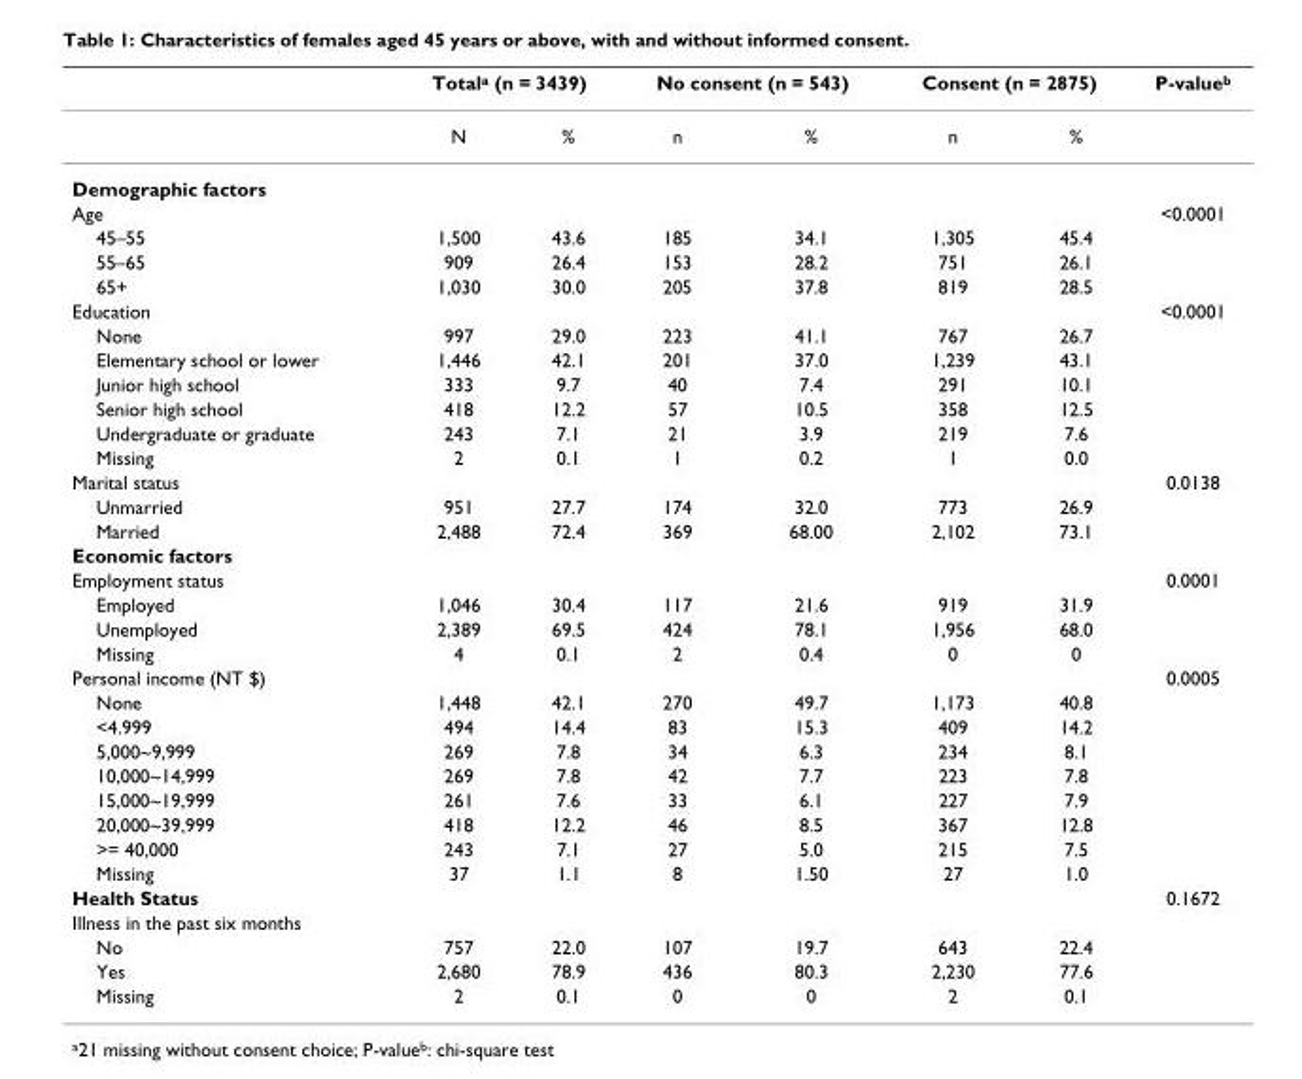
<table><thead><tr><td rowspan="2"></td><td colspan="2">Total<sup>a</sup> (n = 3439)</td><td colspan="2">No consent (n = 543)</td><td colspan="2">Consent (n = 2875)</td><td rowspan="2">P-value<sup>b</sup></td></tr><tr><td>N</td><td>%</td><td>n</td><td>%</td><td>n</td><td>%</td></tr></thead><tbody><tr><td colspan="8">Demographic factors</td></tr><tr><td>Age</td><td></td><td></td><td></td><td></td><td></td><td></td><td>&lt;0.0001</td></tr><tr><td>45–55</td><td>1,500</td><td>43.6</td><td>185</td><td>34.1</td><td>1,305</td><td>45.4</td><td></td></tr><tr><td>55–65</td><td>909</td><td>26.4</td><td>153</td><td>28.2</td><td>751</td><td>26.1</td><td></td></tr><tr><td>65+</td><td>1,030</td><td>30.0</td><td>205</td><td>37.8</td><td>819</td><td>28.5</td><td></td></tr><tr><td>Education</td><td></td><td></td><td></td><td></td><td></td><td></td><td>&lt;0.0001</td></tr><tr><td>None</td><td>997</td><td>29.0</td><td>223</td><td>41.1</td><td>767</td><td>26.7</td><td></td></tr><tr><td>Elementary school or lower</td><td>1,446</td><td>42.1</td><td>201</td><td>37.0</td><td>1,239</td><td>43.1</td><td></td></tr><tr><td>Junior high school</td><td>333</td><td>9.7</td><td>40</td><td>7.4</td><td>291</td><td>10.1</td><td></td></tr><tr><td>Senior high school</td><td>418</td><td>12.2</td><td>57</td><td>10.5</td><td>358</td><td>12.5</td><td></td></tr><tr><td>Undergraduate or graduate</td><td>243</td><td>7.1</td><td>21</td><td>3.9</td><td>219</td><td>7.6</td><td></td></tr><tr><td>Missing</td><td>2</td><td>0.1</td><td>1</td><td>0.2</td><td>1</td><td>0.0</td><td></td></tr><tr><td>Marital status</td><td></td><td></td><td></td><td></td><td></td><td></td><td>0.0138</td></tr><tr><td>Unmarried</td><td>951</td><td>27.7</td><td>174</td><td>32.0</td><td>773</td><td>26.9</td><td></td></tr><tr><td>Married</td><td>2,488</td><td>72.4</td><td>369</td><td>68.00</td><td>2,102</td><td>73.1</td><td></td></tr><tr><td colspan="8">Economic factors</td></tr><tr><td>Employment status</td><td></td><td></td><td></td><td></td><td></td><td></td><td>0.0001</td></tr><tr><td>Employed</td><td>1,046</td><td>30.4</td><td>117</td><td>21.6</td><td>919</td><td>31.9</td><td></td></tr><tr><td>Unemployed</td><td>2,389</td><td>69.5</td><td>424</td><td>78.1</td><td>1,956</td><td>68.0</td><td></td></tr><tr><td>Missing</td><td>4</td><td>0.1</td><td>2</td><td>0.4</td><td>0</td><td>0</td><td></td></tr><tr><td>Personal income (NT $)</td><td></td><td></td><td></td><td></td><td></td><td></td><td>0.0005</td></tr><tr><td>None</td><td>1,448</td><td>42.1</td><td>270</td><td>49.7</td><td>1,173</td><td>40.8</td><td></td></tr><tr><td>&lt;4.999</td><td>494</td><td>14.4</td><td>83</td><td>15.3</td><td>409</td><td>14.2</td><td></td></tr><tr><td>5,000~9,999</td><td>269</td><td>7.8</td><td>34</td><td>6.3</td><td>234</td><td>8.1</td><td></td></tr><tr><td>10,000~14,999</td><td>269</td><td>7.8</td><td>42</td><td>7.7</td><td>223</td><td>7.8</td><td></td></tr><tr><td>15,000~19,999</td><td>261</td><td>7.6</td><td>33</td><td>6.1</td><td>227</td><td>7.9</td><td></td></tr><tr><td>20,000~39,999</td><td>418</td><td>12.2</td><td>46</td><td>8.5</td><td>367</td><td>12.8</td><td></td></tr><tr><td>&gt;= 40,000</td><td>243</td><td>7.1</td><td>27</td><td>5.0</td><td>215</td><td>7.5</td><td></td></tr><tr><td>Missing</td><td>37</td><td>1.1</td><td>8</td><td>1.50</td><td>27</td><td>1.0</td><td></td></tr><tr><td>Health Status</td><td></td><td></td><td></td><td></td><td></td><td></td><td>0.1672</td></tr><tr><td colspan="8">Illness in the past six months</td></tr><tr><td>No</td><td>757</td><td>22.0</td><td>107</td><td>19.7</td><td>643</td><td>22.4</td><td></td></tr><tr><td>Yes</td><td>2,680</td><td>78.9</td><td>436</td><td>80.3</td><td>2,230</td><td>77.6</td><td></td></tr><tr><td>Missing</td><td>2</td><td>0.1</td><td>0</td><td>0</td><td>2</td><td>0.1</td><td></td></tr></tbody></table>